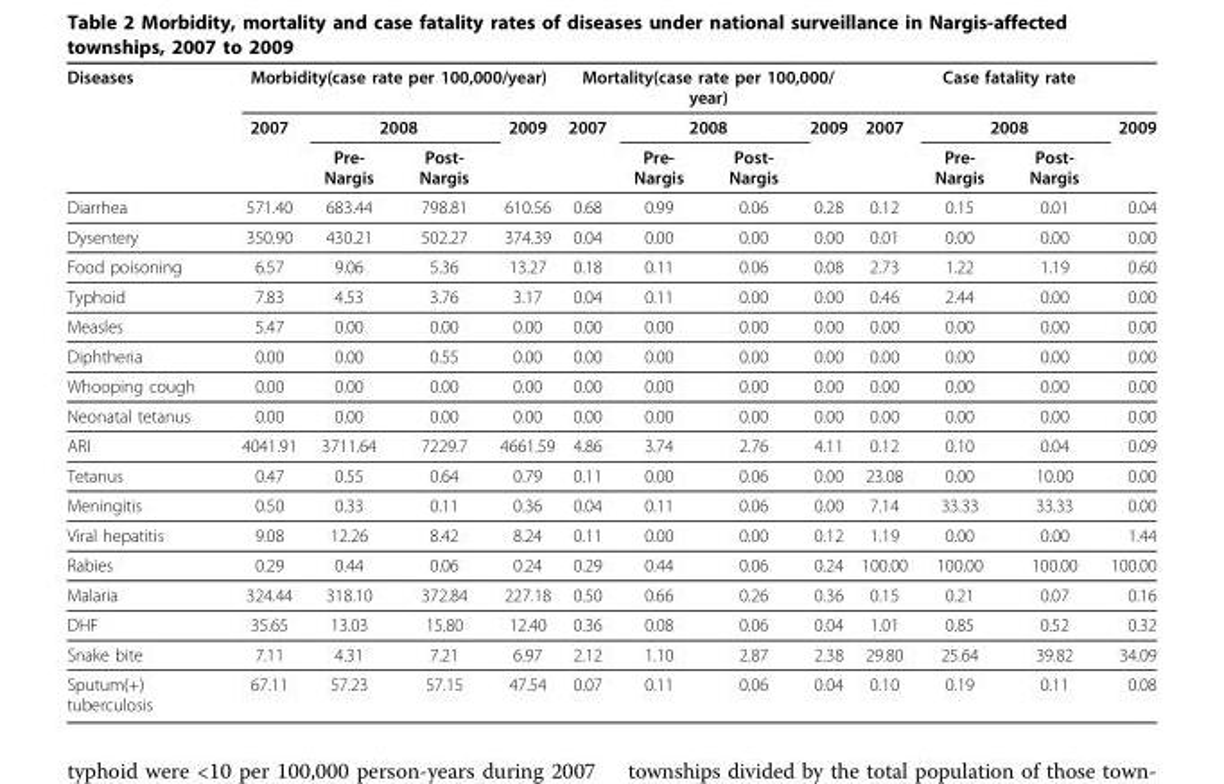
<table><thead><tr><td rowspan="3">Diseases</td><td colspan="4">Morbidity(case rate per 100,000/year)</td><td colspan="4">Mortality(case rate per 100,000/ year)</td><td colspan="4">Case fatality rate</td></tr><tr><td rowspan="2">2007</td><td colspan="2">2008</td><td rowspan="2">2009</td><td rowspan="2">2007</td><td colspan="2">2008</td><td rowspan="2">2009</td><td rowspan="2">2007</td><td colspan="2">2008</td><td rowspan="2">2009</td></tr><tr><td>Pre- Nargis</td><td>Post- Nargis</td><td>Pre- Nargis</td><td>Post- Nargis</td><td>Pre- Nargis</td><td>Post- Nargis</td></tr></thead><tbody><tr><td>Diarrhea</td><td>571.40</td><td>683.44</td><td>798.81</td><td>610.56</td><td>0.68</td><td>0.99</td><td>0.06</td><td>0.28</td><td>0.12</td><td>0.15</td><td>0.01</td><td>0.04</td></tr><tr><td>Dysentery</td><td>350.90</td><td>430.21</td><td>502.27</td><td>374.39</td><td>0.04</td><td>0.00</td><td>0.00</td><td>0.00</td><td>0.01</td><td>0.00</td><td>0.00</td><td>0.00</td></tr><tr><td>Food poisoning</td><td>6.57</td><td>9.06</td><td>5.36</td><td>13.27</td><td>0.18</td><td>0.11</td><td>0.06</td><td>0.08</td><td>2.73</td><td>1.22</td><td>1.19</td><td>0.60</td></tr><tr><td>Typhoid</td><td>7.83</td><td>4.53</td><td>3.76</td><td>3.17</td><td>0.04</td><td>0.11</td><td>0.00</td><td>0.00</td><td>0.46</td><td>2.44</td><td>0.00</td><td>0.00</td></tr><tr><td>Measles</td><td>5.47</td><td>0.00</td><td>0.00</td><td>0.00</td><td>0.00</td><td>0.00</td><td>0.00</td><td>0.00</td><td>0.00</td><td>0.00</td><td>0.00</td><td>0.00</td></tr><tr><td>Diphtheria</td><td>0.00</td><td>0.00</td><td>0.55</td><td>0.00</td><td>0.00</td><td>0.00</td><td>0.00</td><td>0.00</td><td>0.00</td><td>0.00</td><td>0.00</td><td>0.00</td></tr><tr><td>Whooping cough</td><td>0.00</td><td>0.00</td><td>0.00</td><td>0.00</td><td>0.00</td><td>0.00</td><td>0.00</td><td>0.00</td><td>0.00</td><td>0.00</td><td>0.00</td><td>0.00</td></tr><tr><td>Neonatal tetanus</td><td>0.00</td><td>0.00</td><td>0.00</td><td>0.00</td><td>0.00</td><td>0.00</td><td>0.00</td><td>0.00</td><td>0.00</td><td>0.00</td><td>0.00</td><td>0.00</td></tr><tr><td>ARI</td><td>4041.91</td><td>3711.64</td><td>7229.7</td><td>4661.59</td><td>4.86</td><td>3.74</td><td>2.76</td><td>4.11</td><td>0.12</td><td>0.10</td><td>0.04</td><td>0.09</td></tr><tr><td>Tetanus</td><td>0.47</td><td>0.55</td><td>0.64</td><td>0.79</td><td>0.11</td><td>0.00</td><td>0.06</td><td>0.00</td><td>23.08</td><td>0.00</td><td>10.00</td><td>0.00</td></tr><tr><td>Meningitis</td><td>0.50</td><td>0.33</td><td>0.11</td><td>0.36</td><td>0.04</td><td>0.11</td><td>0.06</td><td>0.00</td><td>7.14</td><td>33.33</td><td>33.33</td><td>0.00</td></tr><tr><td>Viral hepatitis</td><td>9.08</td><td>12.26</td><td>8.42</td><td>8.24</td><td>0.11</td><td>0.00</td><td>0.00</td><td>0.12</td><td>1.19</td><td>0.00</td><td>0.00</td><td>1.44</td></tr><tr><td>Rabies</td><td>0.29</td><td>0.44</td><td>0.06</td><td>0.24</td><td>0.29</td><td>0.44</td><td>0.06</td><td>0.24</td><td>100.00</td><td>100.00</td><td>100.00</td><td>100.00</td></tr><tr><td>Malaria</td><td>324.44</td><td>318.10</td><td>372.84</td><td>227.18</td><td>0.50</td><td>0.66</td><td>0.26</td><td>0.36</td><td>0.15</td><td>0.21</td><td>0.07</td><td>0.16</td></tr><tr><td>DHF</td><td>35.65</td><td>13.03</td><td>15.80</td><td>12.40</td><td>0.36</td><td>0.08</td><td>0.06</td><td>0.04</td><td>1.01</td><td>0.85</td><td>0.52</td><td>0.32</td></tr><tr><td>Snake bite</td><td>7.11</td><td>4.31</td><td>7.21</td><td>6.97</td><td>2.12</td><td>1.10</td><td>2.87</td><td>2.38</td><td>29.80</td><td>25.64</td><td>39.82</td><td>34.09</td></tr><tr><td>Sputum(+) tuberculosis</td><td>67.11</td><td>57.23</td><td>57.15</td><td>47.54</td><td>0.07</td><td>0.11</td><td>0.06</td><td>0.04</td><td>0.10</td><td>0.19</td><td>0.11</td><td>0.08</td></tr></tbody></table>